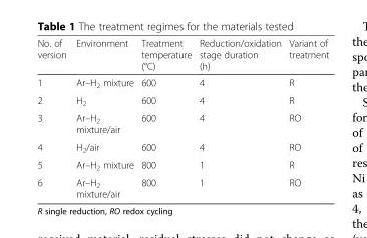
<table><thead><tr><td>No. of version</td><td>Environment</td><td>Treatment temperature (°C)</td><td>Reduction/oxidation stage duration (h)</td><td>Variant of treatment</td></tr></thead><tbody><tr><td>1</td><td>Ar–H<sub>2</sub> mixture</td><td>600</td><td>4</td><td>R</td></tr><tr><td>2</td><td>H<sub>2</sub></td><td>600</td><td>4</td><td>R</td></tr><tr><td>3</td><td>Ar–H<sub>2</sub> mixture/air</td><td>600</td><td>4</td><td>RO</td></tr><tr><td>4</td><td>H<sub>2</sub>/air</td><td>600</td><td>4</td><td>RO</td></tr><tr><td>5</td><td>Ar–H<sub>2</sub> mixture</td><td>800</td><td>1</td><td>R</td></tr><tr><td>6</td><td>Ar–H<sub>2</sub> mixture/air</td><td>800</td><td>1</td><td>RO</td></tr></tbody></table>